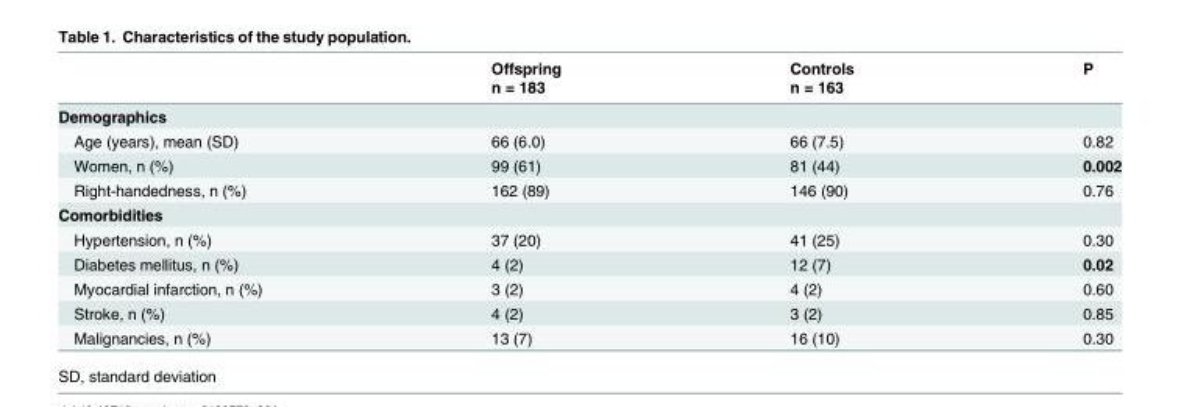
<table><thead><tr><td rowspan="2"></td><td rowspan="2">Offspring n = 183</td><td rowspan="2">Controls n = 163</td><td rowspan="2">P</td></tr><tr></tr></thead><tbody><tr><td colspan="4">Demographics</td></tr><tr><td>Age (years), mean (SD)</td><td>66 (6.0)</td><td>66 (7.5)</td><td>0.82</td></tr><tr><td>Women, n (%)</td><td>99 (61)</td><td>81 (44)</td><td>0.002</td></tr><tr><td>Right-handedness, n (%)</td><td>162 (89)</td><td>146 (90)</td><td>0.76</td></tr><tr><td colspan="4">Comorbidities</td></tr><tr><td>Hypertension, n (%)</td><td>37 (20)</td><td>41 (25)</td><td>0.30</td></tr><tr><td>Diabetes mellitus, n (%)</td><td>4 (2)</td><td>12 (7)</td><td>0.02</td></tr><tr><td>Myocardial infarction, n (%)</td><td>3 (2)</td><td>4 (2)</td><td>0.60</td></tr><tr><td>Stroke, n (%)</td><td>4 (2)</td><td>3 (2)</td><td>0.85</td></tr><tr><td>Malignancies, n (%)</td><td>13 (7)</td><td>16 (10)</td><td>0.30</td></tr></tbody></table>